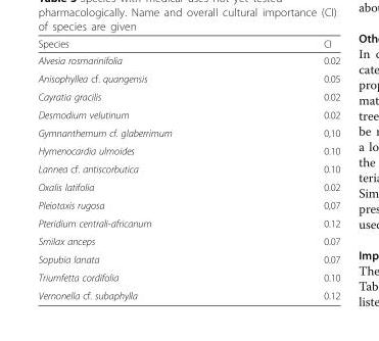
<table><thead><tr><td>Species</td><td>CI</td></tr></thead><tbody><tr><td>Alvesia rosmarinifolia</td><td>0.02</td></tr><tr><td>Anisophyllea cf. quangensis</td><td>0.05</td></tr><tr><td>Cayratia gracilis</td><td>0.02</td></tr><tr><td>Desmodium velutinum</td><td>0.02</td></tr><tr><td>Gymnanthemum cf. glaberrimum</td><td>0,10</td></tr><tr><td>Hymenocardia ulmoides</td><td>0.10</td></tr><tr><td>Lannea cf. antiscorbutica</td><td>0.10</td></tr><tr><td>Oxalis latifolia</td><td>0.02</td></tr><tr><td>Pleiotaxis rugosa</td><td>0,07</td></tr><tr><td>Pteridium centrali-africanum</td><td>0.12</td></tr><tr><td>Smilax anceps</td><td>0.07</td></tr><tr><td>Sopubia lanata</td><td>0.07</td></tr><tr><td>Triumfetta cordifolia</td><td>0.10</td></tr><tr><td>Vernonella cf. subaphylla</td><td>0.12</td></tr></tbody></table>